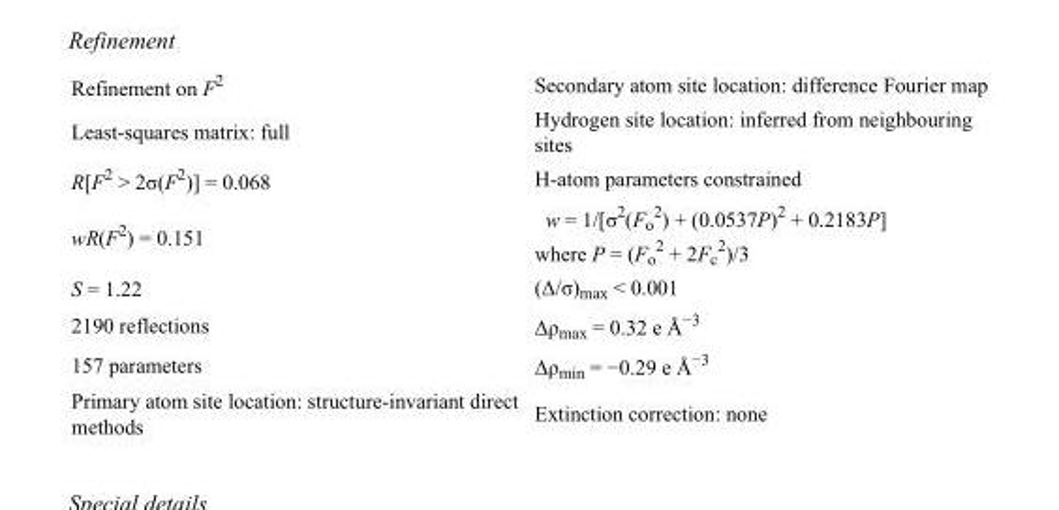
<table><tbody><tr><td>Refinement on F<sup>2</sup></td><td>Secondary atom site location: difference Fourier map</td></tr><tr><td>Least-squares matrix: full</td><td>Hydrogen site location: inferred from neighbouring sites</td></tr><tr><td>R[F<sup>2</sup> &gt; 2σ(F<sup>2</sup>)] = 0.068</td><td>H-atom parameters constrained</td></tr><tr><td>wR(F<sup>2</sup>) = 0.151</td><td>w = 1/[σ<sup>2</sup>(F<sub>o</sub> <sup>2</sup>) + (0.0537P)<sup>2</sup> + 0.2183P] where P = (F<sub>o</sub> <sup>2</sup> + 2F<sub>c</sub> <sup>2</sup>)/3</td></tr><tr><td>S = 1.22</td><td>(Δ/σ)<sub>max</sub> &lt; 0.001</td></tr><tr><td>2190 reflections</td><td>Δρ<sub>max</sub> = 0.32 e Å<sup>−3</sup></td></tr><tr><td>157 parameters</td><td>Δρ<sub>min</sub> = −0.29 e Å<sup>−3</sup></td></tr><tr><td>Primary atom site location: structure-invariant direct methods</td><td>Extinction correction: none</td></tr></tbody></table>